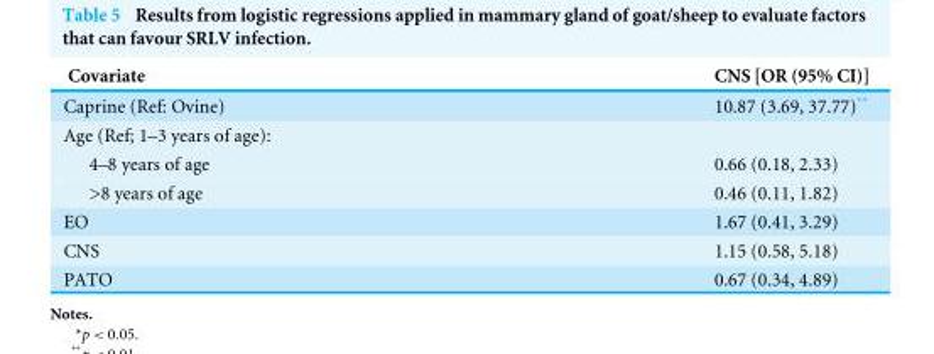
<table><thead><tr><td>Covariate</td><td>CNS [OR (95% CI)]</td></tr></thead><tbody><tr><td>Caprine (Ref: Ovine)</td><td>10.87 (3.69, 37.77)**</td></tr><tr><td colspan="2">Age (Ref; 1–3 years of age):</td></tr><tr><td>4–8 years of age</td><td>0.66 (0.18, 2.33)</td></tr><tr><td>&gt;8 years of age</td><td>0.46 (0.11, 1.82)</td></tr><tr><td>EO</td><td>1.67 (0.41, 3.29)</td></tr><tr><td>CNS</td><td>1.15 (0.58, 5.18)</td></tr><tr><td>PATO</td><td>0.67 (0.34, 4.89)</td></tr></tbody></table>